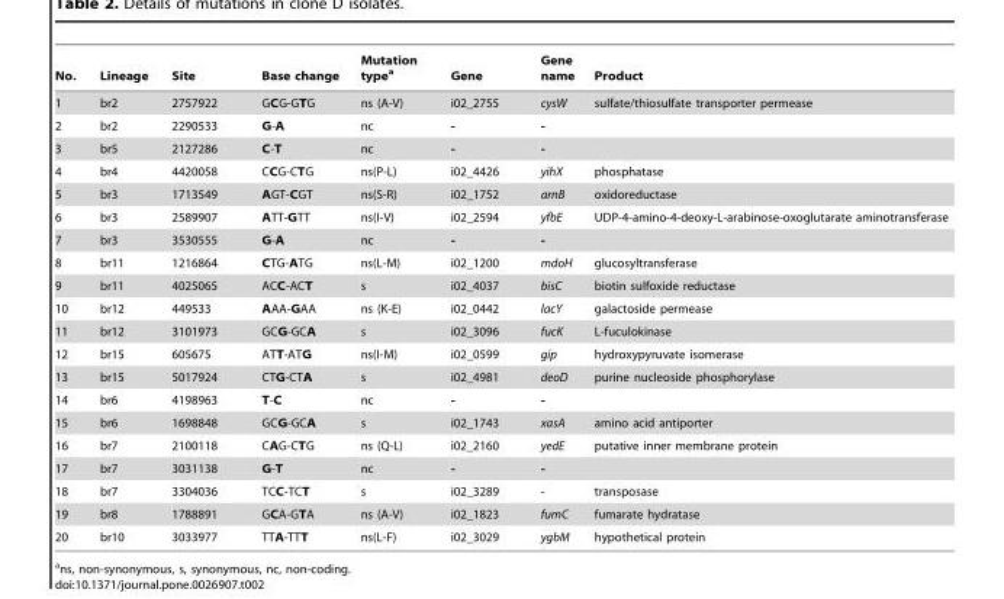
<table><thead><tr><td>No.</td><td>Lineage</td><td>Site</td><td>Base change</td><td>Mutation type<sup>a</sup></td><td>Gene</td><td>Gene name</td><td>Product</td></tr></thead><tbody><tr><td>1</td><td>br2</td><td>2757922</td><td>GCG-GTG</td><td>ns (A-V)</td><td>i02_2755</td><td>cysW</td><td>sulfate/thiosulfate transporter permease</td></tr><tr><td>2</td><td>br2</td><td>2290533</td><td>G-A</td><td>nc</td><td>-</td><td>-</td><td></td></tr><tr><td>3</td><td>br5</td><td>2127286</td><td>C-T</td><td>nc</td><td>-</td><td>-</td><td></td></tr><tr><td>4</td><td>br4</td><td>4420058</td><td>CCG-CTG</td><td>ns(P-L)</td><td>i02_4426</td><td>yihX</td><td>phosphatase</td></tr><tr><td>5</td><td>br3</td><td>1713549</td><td>AGT-CGT</td><td>ns(S-R)</td><td>i02_1752</td><td>arnB</td><td>oxidoreductase</td></tr><tr><td>6</td><td>br3</td><td>2589907</td><td>ATT-GTT</td><td>ns(I-V)</td><td>i02_2594</td><td>yfbE</td><td>UDP-4-amino-4-deoxy-L-arabinose-oxoglutarate aminotransferase</td></tr><tr><td>7</td><td>br3</td><td>3530555</td><td>G-A</td><td>nc</td><td>-</td><td>-</td><td></td></tr><tr><td>8</td><td>br11</td><td>1216864</td><td>CTG-ATG</td><td>ns(L-M)</td><td>i02_1200</td><td>mdoH</td><td>glucosyltransferase</td></tr><tr><td>9</td><td>br11</td><td>4025065</td><td>ACC-ACT</td><td>s</td><td>i02_4037</td><td>bisC</td><td>biotin sulfoxide reductase</td></tr><tr><td>10</td><td>br12</td><td>449533</td><td>AAA-GAA</td><td>ns (K-E)</td><td>i02_0442</td><td>lacY</td><td>galactoside permease</td></tr><tr><td>11</td><td>br12</td><td>3101973</td><td>GCG-GCA</td><td>s</td><td>i02_3096</td><td>fucK</td><td>L-fuculokinase</td></tr><tr><td>12</td><td>br15</td><td>605675</td><td>ATT-ATG</td><td>ns(I-M)</td><td>i02_0599</td><td>gip</td><td>hydroxypyruvate isomerase</td></tr><tr><td>13</td><td>br15</td><td>5017924</td><td>CTG-CTA</td><td>s</td><td>i02_4981</td><td>deoD</td><td>purine nucleoside phosphorylase</td></tr><tr><td>14</td><td>br6</td><td>4198963</td><td>T-C</td><td>nc</td><td>-</td><td>-</td><td></td></tr><tr><td>15</td><td>br6</td><td>1698848</td><td>GCG-GCA</td><td>s</td><td>i02_1743</td><td>xasA</td><td>amino acid antiporter</td></tr><tr><td>16</td><td>br7</td><td>2100118</td><td>CAG-CTG</td><td>ns (Q-L)</td><td>i02_2160</td><td>yedE</td><td>putative inner membrane protein</td></tr><tr><td>17</td><td>br7</td><td>3031138</td><td>G-T</td><td>nc</td><td>-</td><td>-</td><td></td></tr><tr><td>18</td><td>br7</td><td>3304036</td><td>TCC-TCT</td><td>s</td><td>i02_3289</td><td>-</td><td>transposase</td></tr><tr><td>19</td><td>br8</td><td>1788891</td><td>GCA-GTA</td><td>ns (A-V)</td><td>i02_1823</td><td>fumC</td><td>fumarate hydratase</td></tr><tr><td>20</td><td>br10</td><td>3033977</td><td>TTA-TTT</td><td>ns(L-F)</td><td>i02_3029</td><td>ygbM</td><td>hypothetical protein</td></tr></tbody></table>